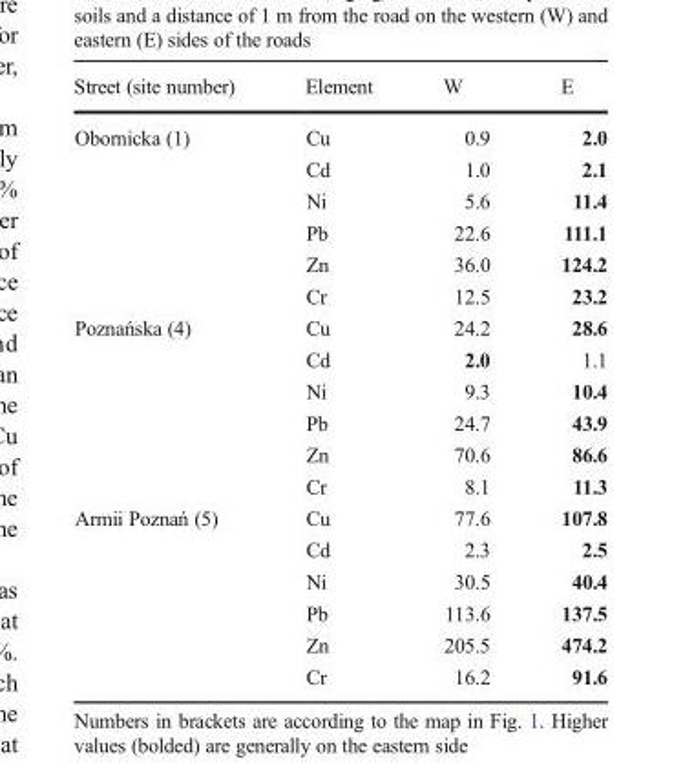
<table><thead><tr><td>Street (site number)</td><td>Element</td><td>W</td><td>E</td></tr></thead><tbody><tr><td rowspan="6">Obornicka (1)</td><td>Cu</td><td>0.9</td><td>2.0</td></tr><tr><td>Cd</td><td>1.0</td><td>2.1</td></tr><tr><td>Ni</td><td>5.6</td><td>11.4</td></tr><tr><td>Pb</td><td>22.6</td><td>111.1</td></tr><tr><td>Zn</td><td>36.0</td><td>124.2</td></tr><tr><td>Cr</td><td>12.5</td><td>23.2</td></tr><tr><td rowspan="6">Poznańska (4)</td><td>Cu</td><td>24.2</td><td>28.6</td></tr><tr><td>Cd</td><td>2.0</td><td>1.1</td></tr><tr><td>Ni</td><td>9.3</td><td>10.4</td></tr><tr><td>Pb</td><td>24.7</td><td>43.9</td></tr><tr><td>Zn</td><td>70.6</td><td>86.6</td></tr><tr><td>Cr</td><td>8.1</td><td>11.3</td></tr><tr><td rowspan="6">Armii Poznań (5)</td><td>Cu</td><td>77.6</td><td>107.8</td></tr><tr><td>Cd</td><td>2.3</td><td>2.5</td></tr><tr><td>Ni</td><td>30.5</td><td>40.4</td></tr><tr><td>Pb</td><td>113.6</td><td>137.5</td></tr><tr><td>Zn</td><td>205.5</td><td>474.2</td></tr><tr><td>Cr</td><td>16.2</td><td>91.6</td></tr></tbody></table>